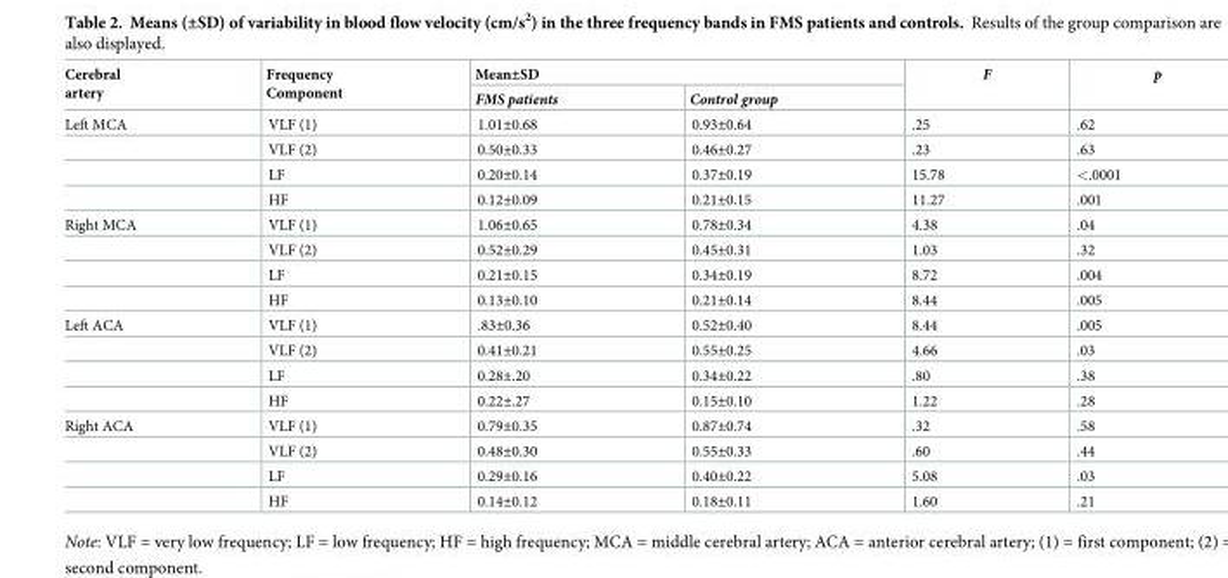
<table><thead><tr><td rowspan="2">Cerebral artery</td><td rowspan="2">Frequency Component</td><td colspan="2">Mean±SD</td><td rowspan="2">F</td><td rowspan="2">p</td></tr><tr><td>FMS patients</td><td>Control group</td></tr></thead><tbody><tr><td rowspan="4">Left MCA</td><td>VLF (1)</td><td>1.01±0.68</td><td>0.93±0.64</td><td>.25</td><td>.62</td></tr><tr><td>VLF (2)</td><td>0.50±0.33</td><td>0.46±0.27</td><td>.23</td><td>.63</td></tr><tr><td>LF</td><td>0.20±0.14</td><td>0.37±0.19</td><td>15.78</td><td>&lt;.0001</td></tr><tr><td>HF</td><td>0.12±0.09</td><td>0.21±0.15</td><td>11.27</td><td>.001</td></tr><tr><td rowspan="4">Right MCA</td><td>VLF (1)</td><td>1.06±0.65</td><td>0.78±0.34</td><td>4.38</td><td>.04</td></tr><tr><td>VLF (2)</td><td>0.52±0.29</td><td>0.45±0.31</td><td>1.03</td><td>.32</td></tr><tr><td>LF</td><td>0.21±0.15</td><td>0.34±0.19</td><td>8.72</td><td>.004</td></tr><tr><td>HF</td><td>0.13±0.10</td><td>0.21±0.14</td><td>8.44</td><td>.005</td></tr><tr><td rowspan="4">Left ACA</td><td>VLF (1)</td><td>.83±0.36</td><td>0.52±0.40</td><td>8.44</td><td>.005</td></tr><tr><td>VLF (2)</td><td>0.41±0.21</td><td>0.55±0.25</td><td>4.66</td><td>.03</td></tr><tr><td>LF</td><td>0.28±.20</td><td>0.34±0.22</td><td>.80</td><td>.38</td></tr><tr><td>HF</td><td>0.22±.27</td><td>0.15±0.10</td><td>1.22</td><td>.28</td></tr><tr><td rowspan="4">Right ACA</td><td>VLF (1)</td><td>0.79±0.35</td><td>0.87±0.74</td><td>.32</td><td>.58</td></tr><tr><td>VLF (2)</td><td>0.48±0.30</td><td>0.55±0.33</td><td>.60</td><td>.44</td></tr><tr><td>LF</td><td>0.29±0.16</td><td>0.40±0.22</td><td>5.08</td><td>.03</td></tr><tr><td>HF</td><td>0.14±0.12</td><td>0.18±0.11</td><td>1.60</td><td>.21</td></tr></tbody></table>